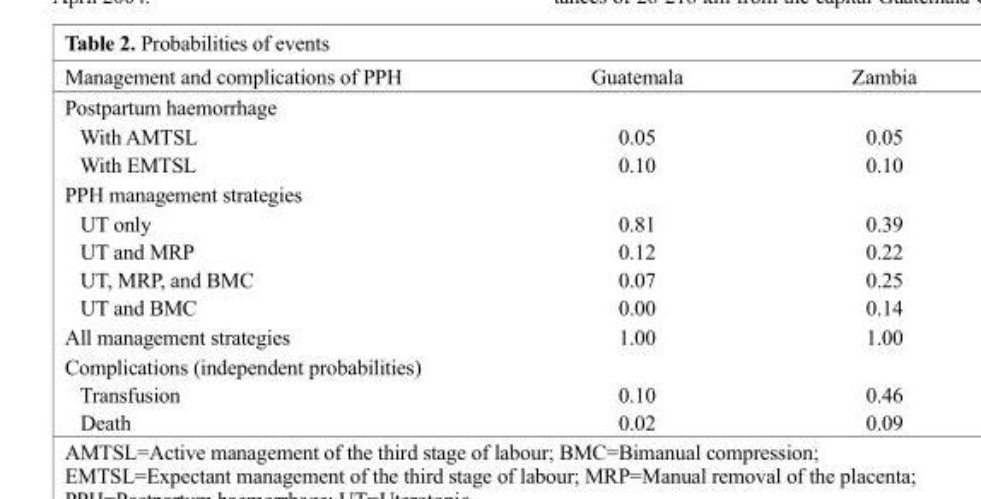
<table><thead><tr><td>Management and complications of PPH</td><td>Guatemala</td><td>Zambia</td></tr></thead><tbody><tr><td colspan="3">Postpartum haemorrhage</td></tr><tr><td>With AMTSL</td><td>0.05</td><td>0.05</td></tr><tr><td>With EMTSL</td><td>0.10</td><td>0.10</td></tr><tr><td colspan="3">PPH management strategies</td></tr><tr><td>UT only</td><td>0.81</td><td>0.39</td></tr><tr><td>UT and MRP</td><td>0.12</td><td>0.22</td></tr><tr><td>UT, MRP, and BMC</td><td>0.07</td><td>0.25</td></tr><tr><td>UT and BMC</td><td>0.00</td><td>0.14</td></tr><tr><td>All management strategies</td><td>1.00</td><td>1.00</td></tr><tr><td colspan="3">Complications (independent probabilities)</td></tr><tr><td>Transfusion</td><td>0.10</td><td>0.46</td></tr><tr><td>Death</td><td>0.02</td><td>0.09</td></tr></tbody></table>